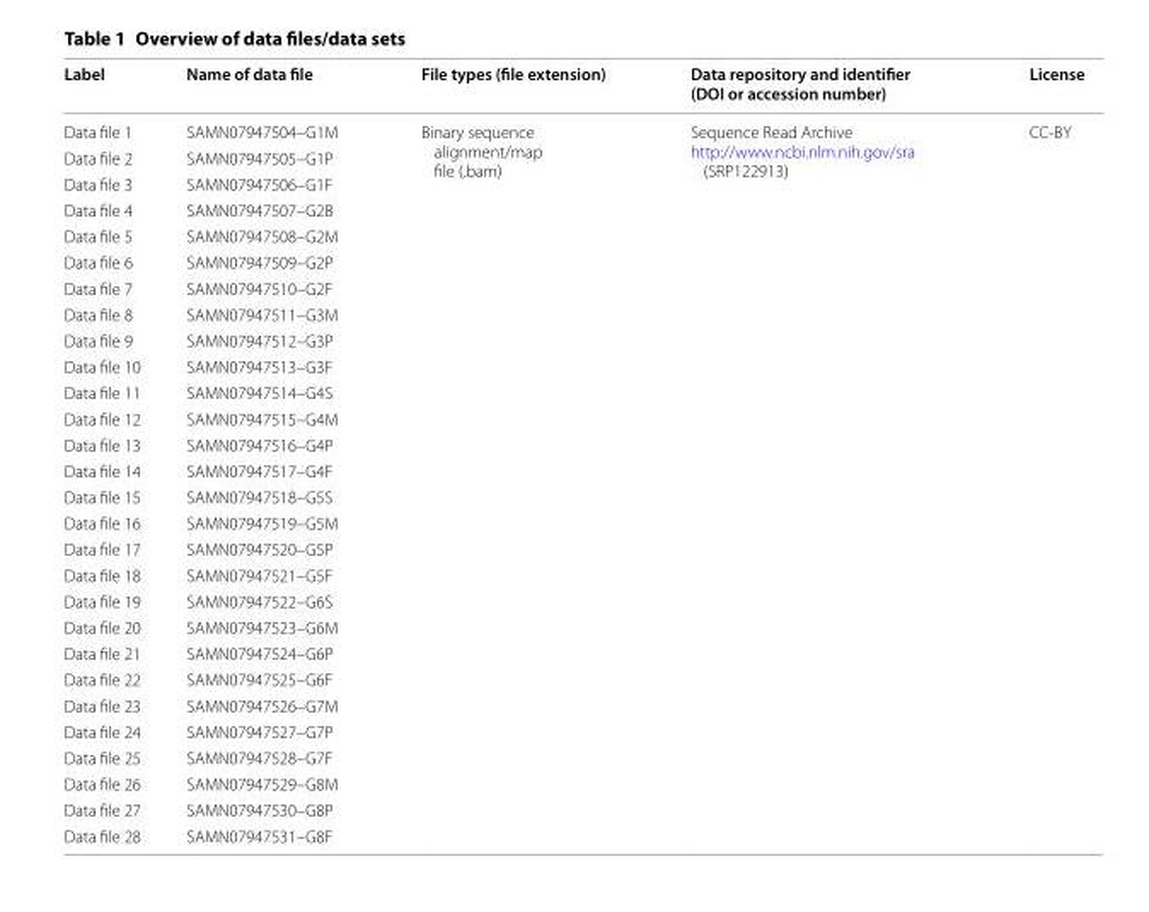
<table><thead><tr><td>Label</td><td>Name of data file</td><td>File types (file extension)</td><td>Data repository and identifier (DOI or accession number)</td><td>License</td></tr></thead><tbody><tr><td>Data file 1</td><td>SAMN07947504–G1M</td><td rowspan="28">Binary sequence alignment/map file (.bam)</td><td rowspan="28">Sequence Read Archive http://www.ncbi.nlm.nih.gov/sra (SRP122913)</td><td rowspan="28">CC‑BY</td></tr><tr><td>Data file 2</td><td>SAMN07947505–G1P</td></tr><tr><td>Data file 3</td><td>SAMN07947506–G1F</td></tr><tr><td>Data file 4</td><td>SAMN07947507–G2B</td></tr><tr><td>Data file 5</td><td>SAMN07947508–G2M</td></tr><tr><td>Data file 6</td><td>SAMN07947509–G2P</td></tr><tr><td>Data file 7</td><td>SAMN07947510–G2F</td></tr><tr><td>Data file 8</td><td>SAMN07947511–G3M</td></tr><tr><td>Data file 9</td><td>SAMN07947512–G3P</td></tr><tr><td>Data file 10</td><td>SAMN07947513–G3F</td></tr><tr><td>Data file 11</td><td>SAMN07947514–G4S</td></tr><tr><td>Data file 12</td><td>SAMN07947515–G4M</td></tr><tr><td>Data file 13</td><td>SAMN07947516–G4P</td></tr><tr><td>Data file 14</td><td>SAMN07947517–G4F</td></tr><tr><td>Data file 15</td><td>SAMN07947518–G5S</td></tr><tr><td>Data file 16</td><td>SAMN07947519–G5M</td></tr><tr><td>Data file 17</td><td>SAMN07947520–G5P</td></tr><tr><td>Data file 18</td><td>SAMN07947521–G5F</td></tr><tr><td>Data file 19</td><td>SAMN07947522–G6S</td></tr><tr><td>Data file 20</td><td>SAMN07947523–G6M</td></tr><tr><td>Data file 21</td><td>SAMN07947524–G6P</td></tr><tr><td>Data file 22</td><td>SAMN07947525–G6F</td></tr><tr><td>Data file 23</td><td>SAMN07947526–G7M</td></tr><tr><td>Data file 24</td><td>SAMN07947527–G7P</td></tr><tr><td>Data file 25</td><td>SAMN07947528–G7F</td></tr><tr><td>Data file 26</td><td>SAMN07947529–G8M</td></tr><tr><td>Data file 27</td><td>SAMN07947530–G8P</td></tr><tr><td>Data file 28</td><td>SAMN07947531–G8F</td></tr></tbody></table>